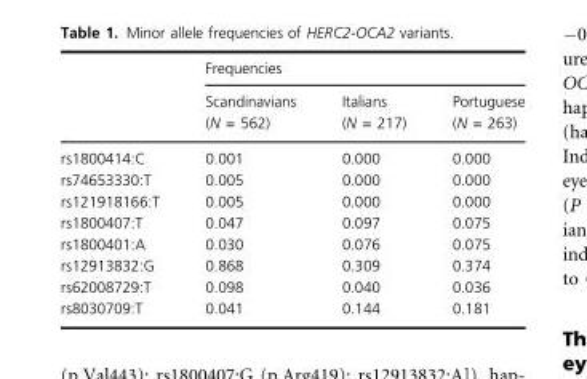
<table><thead><tr><td rowspan="2"></td><td colspan="3">Frequencies</td></tr><tr><td>Scandinavians (N = 562)</td><td>Italians (N = 217)</td><td>Portuguese (N = 263)</td></tr></thead><tbody><tr><td>rs1800414:C</td><td>0.001</td><td>0.000</td><td>0.000</td></tr><tr><td>rs74653330:T</td><td>0.005</td><td>0.000</td><td>0.000</td></tr><tr><td>rs121918166:T</td><td>0.005</td><td>0.000</td><td>0.000</td></tr><tr><td>rs1800407:T</td><td>0.047</td><td>0.097</td><td>0.075</td></tr><tr><td>rs1800401:A</td><td>0.030</td><td>0.076</td><td>0.075</td></tr><tr><td>rs12913832:G</td><td>0.868</td><td>0.309</td><td>0.374</td></tr><tr><td>rs62008729:T</td><td>0.098</td><td>0.040</td><td>0.036</td></tr><tr><td>rs8030709:T</td><td>0.041</td><td>0.144</td><td>0.181</td></tr></tbody></table>